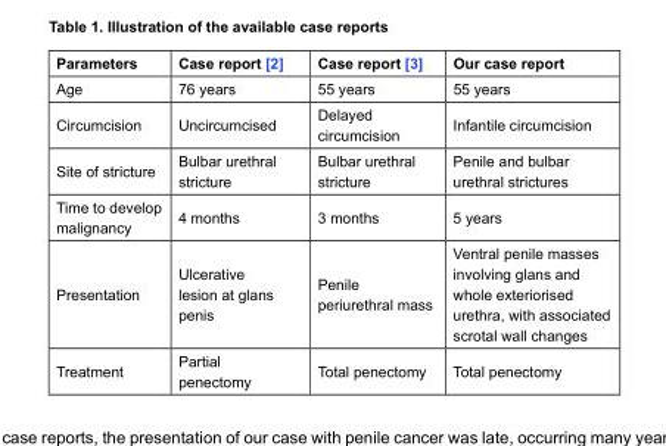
<table><thead><tr><td>Parameters</td><td>Case report [2]</td><td>Case report [3]</td><td>Our case report</td></tr></thead><tbody><tr><td>Age</td><td>76 years</td><td>55 years</td><td>55 years</td></tr><tr><td>Circumcision</td><td>Uncircumcised</td><td>Delayed circumcision</td><td>Infantile circumcision</td></tr><tr><td>Site of stricture</td><td>Bulbar urethral stricture</td><td>Bulbar urethral stricture</td><td>Penile and bulbar urethral strictures</td></tr><tr><td>Time to develop malignancy</td><td>4 months</td><td>3 months</td><td>5 years</td></tr><tr><td>Presentation</td><td>Ulcerative lesion at glans penis</td><td>Penile periurethral mass</td><td>Ventral penile masses involving glans and whole exteriorised urethra, with associated scrotal wall changes</td></tr><tr><td>Treatment</td><td>Partial penectomy</td><td>Total penectomy</td><td>Total penectomy</td></tr></tbody></table>